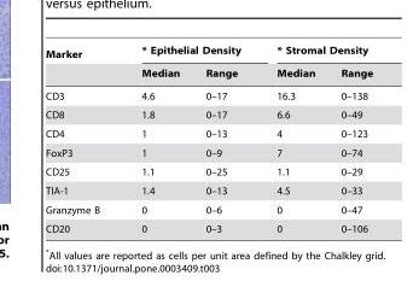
<table><thead><tr><td rowspan="2">Marker</td><td colspan="2">* Epithelial Density</td><td colspan="2">* Stromal Density</td></tr><tr><td>Median</td><td>Range</td><td>Median</td><td>Range</td></tr></thead><tbody><tr><td>CD3</td><td>4.6</td><td>0–17</td><td>16.3</td><td>0–138</td></tr><tr><td>CD8</td><td>1.8</td><td>0–17</td><td>6.6</td><td>0–49</td></tr><tr><td>CD4</td><td>1</td><td>0–13</td><td>4</td><td>0–123</td></tr><tr><td>FoxP3</td><td>1</td><td>0–9</td><td>7</td><td>0–74</td></tr><tr><td>CD25</td><td>1.1</td><td>0–25</td><td>1.1</td><td>0–29</td></tr><tr><td>TIA-1</td><td>1.4</td><td>0–13</td><td>4.5</td><td>0–33</td></tr><tr><td>Granzyme B</td><td>0</td><td>0–6</td><td>0</td><td>0–47</td></tr><tr><td>CD20</td><td>0</td><td>0–3</td><td>0</td><td>0–106</td></tr></tbody></table>